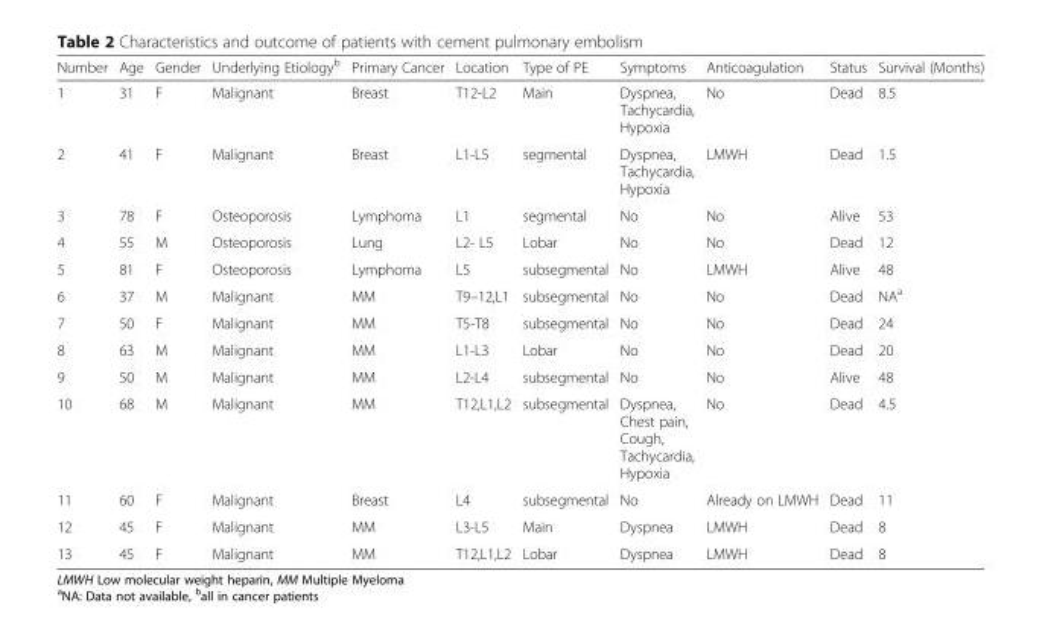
<table><thead><tr><td>Number</td><td>Age</td><td>Gender</td><td>Underlying Etiology<sup>b</sup></td><td>Primary Cancer</td><td>Location</td><td>Type of PE</td><td>Symptoms</td><td>Anticoagulation</td><td>Status</td><td>Survival (Months)</td></tr></thead><tbody><tr><td>1</td><td>31</td><td>F</td><td>Malignant</td><td>Breast</td><td>T12-L2</td><td>Main</td><td>Dyspnea, Tachycardia, Hypoxia</td><td>No</td><td>Dead</td><td>8.5</td></tr><tr><td>2</td><td>41</td><td>F</td><td>Malignant</td><td>Breast</td><td>L1-L5</td><td>segmental</td><td>Dyspnea, Tachycardia, Hypoxia</td><td>LMWH</td><td>Dead</td><td>1.5</td></tr><tr><td>3</td><td>78</td><td>F</td><td>Osteoporosis</td><td>Lymphoma</td><td>L1</td><td>segmental</td><td>No</td><td>No</td><td>Alive</td><td>53</td></tr><tr><td>4</td><td>55</td><td>M</td><td>Osteoporosis</td><td>Lung</td><td>L2- L5</td><td>Lobar</td><td>No</td><td>No</td><td>Dead</td><td>12</td></tr><tr><td>5</td><td>81</td><td>F</td><td>Osteoporosis</td><td>Lymphoma</td><td>L5</td><td>subsegmental</td><td>No</td><td>LMWH</td><td>Alive</td><td>48</td></tr><tr><td>6</td><td>37</td><td>M</td><td>Malignant</td><td>MM</td><td>T9–12,L1</td><td>subsegmental</td><td>No</td><td>No</td><td>Dead</td><td>NA<sup>a</sup></td></tr><tr><td>7</td><td>50</td><td>F</td><td>Malignant</td><td>MM</td><td>T5-T8</td><td>subsegmental</td><td>No</td><td>No</td><td>Dead</td><td>24</td></tr><tr><td>8</td><td>63</td><td>M</td><td>Malignant</td><td>MM</td><td>L1-L3</td><td>Lobar</td><td>No</td><td>No</td><td>Dead</td><td>20</td></tr><tr><td>9</td><td>50</td><td>M</td><td>Malignant</td><td>MM</td><td>L2-L4</td><td>subsegmental</td><td>No</td><td>No</td><td>Alive</td><td>48</td></tr><tr><td>10</td><td>68</td><td>M</td><td>Malignant</td><td>MM</td><td>T12,L1,L2</td><td>subsegmental</td><td>Dyspnea, Chest pain, Cough, Tachycardia, Hypoxia</td><td>No</td><td>Dead</td><td>4.5</td></tr><tr><td>11</td><td>60</td><td>F</td><td>Malignant</td><td>Breast</td><td>L4</td><td>subsegmental</td><td>No</td><td>Already on LMWH</td><td>Dead</td><td>11</td></tr><tr><td>12</td><td>45</td><td>F</td><td>Malignant</td><td>MM</td><td>L3-L5</td><td>Main</td><td>Dyspnea</td><td>LMWH</td><td>Dead</td><td>8</td></tr><tr><td>13</td><td>45</td><td>F</td><td>Malignant</td><td>MM</td><td>T12,L1,L2</td><td>Lobar</td><td>Dyspnea</td><td>LMWH</td><td>Dead</td><td>8</td></tr></tbody></table>